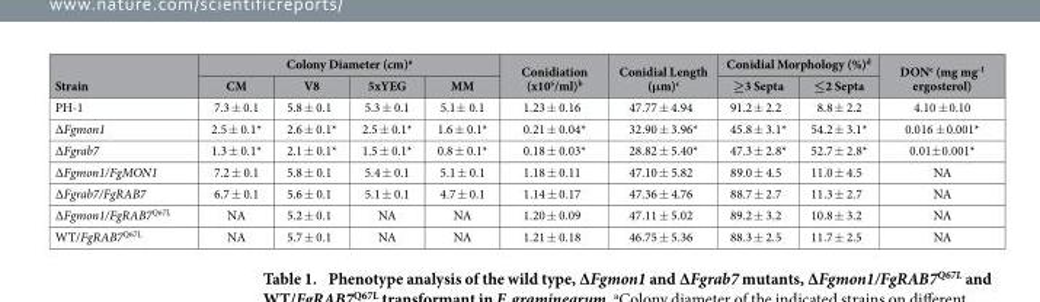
<table><thead><tr><td rowspan="2">Strain</td><td colspan="4">Colony Diameter (cm)<sup>a</sup></td><td rowspan="2">Conidiation (x10<sup>6</sup>/ml)<sup>b</sup></td><td rowspan="2">Conidial Length (μm)<sup>c</sup></td><td colspan="2">Conidial Morphology (%)<sup>d</sup></td><td rowspan="2">DON<sup>e</sup> (mg mg<sup>-1</sup> ergosterol)</td></tr><tr><td>CM</td><td>V8</td><td>5xYEG</td><td>MM</td><td>≥3 Septa</td><td>≤2 Septa</td></tr></thead><tbody><tr><td>PH-1</td><td>7.3 ± 0.1</td><td>5.8 ± 0.1</td><td>5.3 ± 0.1</td><td>5.1± 0.1</td><td>1.23 ± 0.16</td><td>47.77 ± 4.94</td><td>91.2 ± 2.2</td><td>8.8 ± 2.2</td><td>4.10 ± 0.10</td></tr><tr><td>∆Fgmon1</td><td>2.5 ± 0.1*</td><td>2.6 ± 0.1*</td><td>2.5 ± 0.1*</td><td>1.6 ± 0.1*</td><td>0.21 ± 0.04*</td><td>32.90 ± 3.96*</td><td>45.8 ± 3.1*</td><td>54.2 ± 3.1*</td><td>0.016 ± 0.001*</td></tr><tr><td>∆Fgrab7</td><td>1.3 ± 0.1*</td><td>2.1 ± 0.1*</td><td>1.5 ± 0.1*</td><td>0.8 ± 0.1*</td><td>0.18 ± 0.03*</td><td>28.82 ± 5.40*</td><td>47.3 ± 2.8*</td><td>52.7 ± 2.8*</td><td>0.01± 0.001*</td></tr><tr><td>∆Fgmon1/FgMON1</td><td>7.2 ± 0.1</td><td>5.8 ± 0.1</td><td>5.4 ± 0.1</td><td>5.1 ± 0.1</td><td>1.18 ± 0.11</td><td>47.10 ± 5.82</td><td>89.0 ± 4.5</td><td>11.0 ± 4.5</td><td>NA</td></tr><tr><td>∆Fgrab7/FgRAB7</td><td>6.7 ± 0.1</td><td>5.6 ± 0.1</td><td>5.1 ± 0.1</td><td>4.7 ± 0.1</td><td>1.14 ± 0.17</td><td>47.36 ± 4.76</td><td>88.7 ± 2.7</td><td>11.3 ± 2.7</td><td>NA</td></tr><tr><td>∆Fgmon1/FgRAB7<sup>Q67L</sup></td><td>NA</td><td>5.2 ± 0.1</td><td>NA</td><td>NA</td><td>1.20 ± 0.09</td><td>47.11 ± 5.02</td><td>89.2 ± 3.2</td><td>10.8 ± 3.2</td><td>NA</td></tr><tr><td>WT/FgRAB7<sup>Q67L</sup></td><td>NA</td><td>5.7 ± 0.1</td><td>NA</td><td>NA</td><td>1.21 ± 0.18</td><td>46.75 ± 5.36</td><td>88.3 ± 2.5</td><td>11.7 ± 2.5</td><td>NA</td></tr></tbody></table>